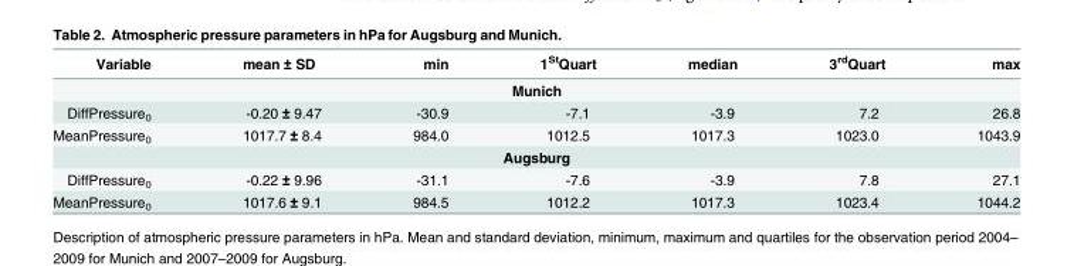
<table><thead><tr><td>Variable</td><td>mean ± SD</td><td>min</td><td>1<sup>St</sup>Quart</td><td>median</td><td>3<sup>rd</sup>Quart</td><td>max</td></tr></thead><tbody><tr><td colspan="7">Munich</td></tr><tr><td>DiffPressure<sub>0</sub></td><td>-0.20 ± 9.47</td><td>-30.9</td><td>-7.1</td><td>-3.9</td><td>7.2</td><td>26.8</td></tr><tr><td>MeanPressure<sub>0</sub></td><td>1017.7 ± 8.4</td><td>984.0</td><td>1012.5</td><td>1017.3</td><td>1023.0</td><td>1043.9</td></tr><tr><td colspan="7">Augsburg</td></tr><tr><td>DiffPressure<sub>0</sub></td><td>-0.22 ± 9.96</td><td>-31.1</td><td>-7.6</td><td>-3.9</td><td>7.8</td><td>27.1</td></tr><tr><td>MeanPressure<sub>0</sub></td><td>1017.6 ± 9.1</td><td>984.5</td><td>1012.2</td><td>1017.3</td><td>1023.4</td><td>1044.2</td></tr></tbody></table>